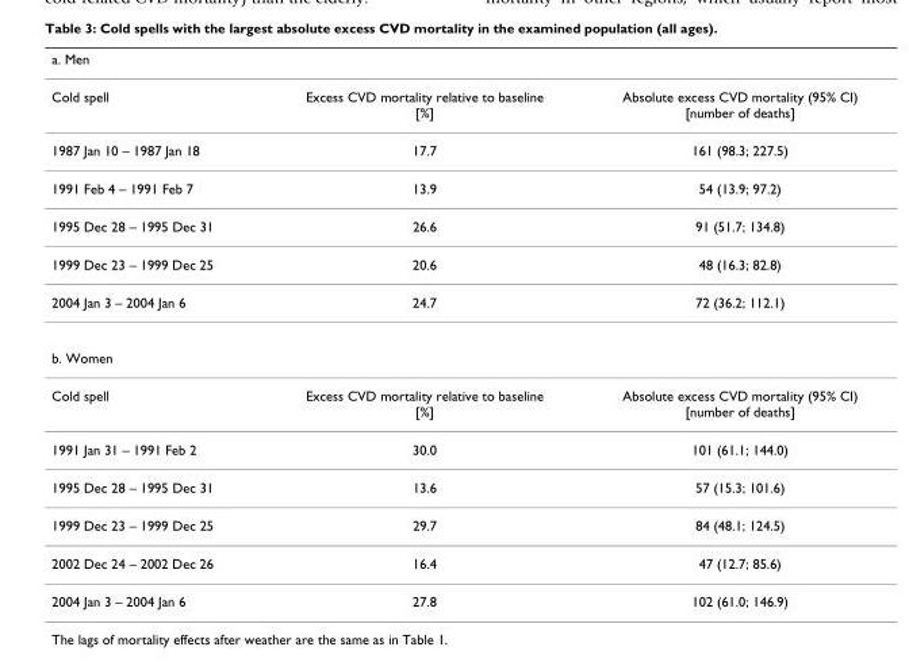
<table><thead><tr><td>a. Men</td><td></td><td></td></tr></thead><tbody><tr><td>Cold spell</td><td>Excess CVD mortality relative to baseline [%]</td><td>Absolute excess CVD mortality (95% CI) [number of deaths]</td></tr><tr><td>1987 Jan 10 – 1987 Jan 18</td><td>17.7</td><td>161 (98.3; 227.5)</td></tr><tr><td>1991 Feb 4 – 1991 Feb 7</td><td>13.9</td><td>54 (13.9; 97.2)</td></tr><tr><td>1995 Dec 28 – 1995 Dec 31</td><td>26.6</td><td>91 (51.7; 134.8)</td></tr><tr><td>1999 Dec 23 – 1999 Dec 25</td><td>20.6</td><td>48 (16.3; 82.8)</td></tr><tr><td>2004 Jan 3 – 2004 Jan 6</td><td>24.7</td><td>72 (36.2; 112.1)</td></tr><tr><td colspan="3">b. Women</td></tr><tr><td>Cold spell</td><td>Excess CVD mortality relative to baseline [%]</td><td>Absolute excess CVD mortality (95% CI) [number of deaths]</td></tr><tr><td>1991 Jan 31 – 1991 Feb 2</td><td>30.0</td><td>101 (61.1; 144.0)</td></tr><tr><td>1995 Dec 28 – 1995 Dec 31</td><td>13.6</td><td>57 (15.3; 101.6)</td></tr><tr><td>1999 Dec 23 – 1999 Dec 25</td><td>29.7</td><td>84 (48.1; 124.5)</td></tr><tr><td>2002 Dec 24 – 2002 Dec 26</td><td>16.4</td><td>47 (12.7; 85.6)</td></tr><tr><td>2004 Jan 3 – 2004 Jan 6</td><td>27.8</td><td>102 (61.0; 146.9)</td></tr></tbody></table>